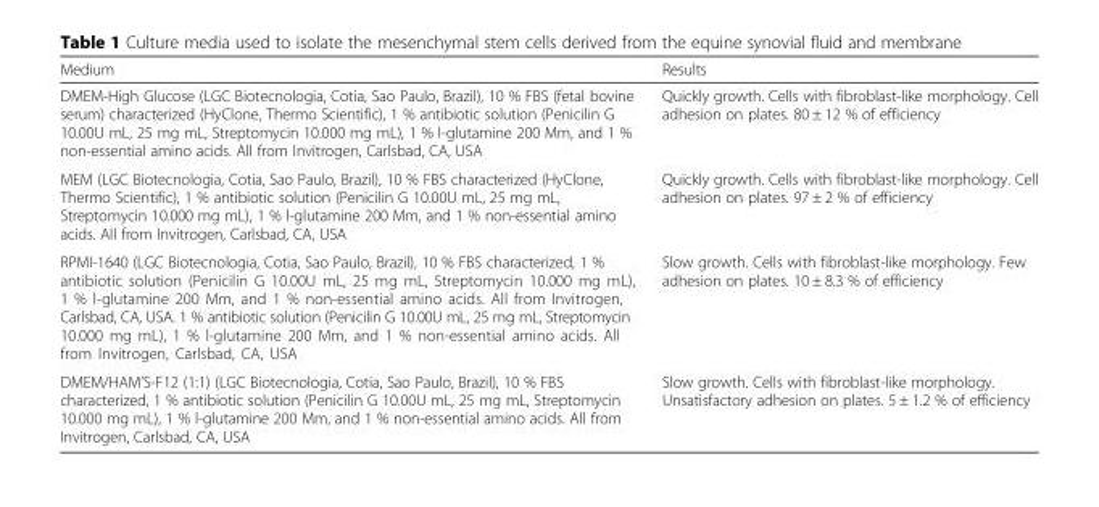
<table><thead><tr><td>Medium</td><td>Results</td></tr></thead><tbody><tr><td>DMEM-High Glucose (LGC Biotecnologia, Cotia, Sao Paulo, Brazil), 10 % FBS (fetal bovine serum) characterized (HyClone, Thermo Scientific), 1 % antibiotic solution (Penicilin G 10.00U mL, 25 mg mL, Streptomycin 10.000 mg mL), 1 % l-glutamine 200 Mm, and 1 % non-essential amino acids. All from Invitrogen, Carlsbad, CA, USA</td><td>Quickly growth. Cells with fibroblast-like morphology. Cell adhesion on plates. 80 ± 12 % of efficiency</td></tr><tr><td>MEM (LGC Biotecnologia, Cotia, Sao Paulo, Brazil), 10 % FBS characterized (HyClone, Thermo Scientific), 1 % antibiotic solution (Penicilin G 10.00U mL, 25 mg mL, Streptomycin 10.000 mg mL), 1 % l-glutamine 200 Mm, and 1 % non-essential amino acids. All from Invitrogen, Carlsbad, CA, USA</td><td>Quickly growth. Cells with fibroblast-like morphology. Cell adhesion on plates. 97 ± 2 % of efficiency</td></tr><tr><td>RPMI-1640 (LGC Biotecnologia, Cotia, Sao Paulo, Brazil), 10 % FBS characterized, 1 % antibiotic solution (Penicilin G 10.00U mL, 25 mg mL, Streptomycin 10.000 mg mL), 1 % l-glutamine 200 Mm, and 1 % non-essential amino acids. All from Invitrogen, Carlsbad, CA, USA. 1 % antibiotic solution (Penicilin G 10.00U mL, 25 mg mL, Streptomycin 10.000 mg mL), 1 % l-glutamine 200 Mm, and 1 % non-essential amino acids. All from Invitrogen, Carlsbad, CA, USA</td><td>Slow growth. Cells with fibroblast-like morphology. Few adhesion on plates. 10 ± 8.3 % of efficiency</td></tr><tr><td>DMEM/HAM’S-F12 (1:1) (LGC Biotecnologia, Cotia, Sao Paulo, Brazil), 10 % FBS characterized, 1 % antibiotic solution (Penicilin G 10.00U mL, 25 mg mL, Streptomycin 10.000 mg mL), 1 % l-glutamine 200 Mm, and 1 % non-essential amino acids. All from Invitrogen, Carlsbad, CA, USA</td><td>Slow growth. Cells with fibroblast-like morphology. Unsatisfactory adhesion on plates. 5 ± 1.2 % of efficiency</td></tr></tbody></table>